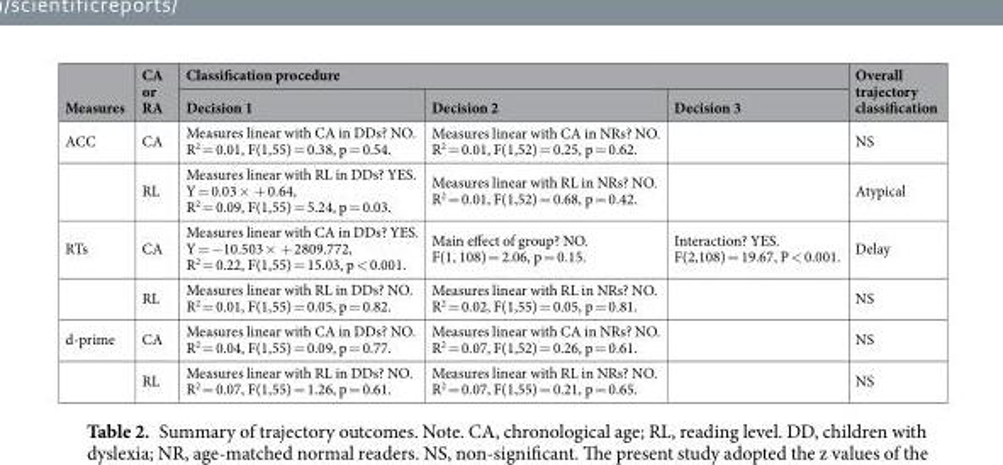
<table><thead><tr><td rowspan="2">Measures</td><td rowspan="2">CA or RA</td><td colspan="3">Classification procedure</td><td rowspan="2">Overall trajectory classification</td></tr><tr><td>Decision 1</td><td>Decision 2</td><td>Decision 3</td></tr></thead><tbody><tr><td rowspan="2">ACC</td><td>CA</td><td>Measures linear with CA in DDs? NO. R<sup>2</sup> = 0.01, F(1,55) = 0.38, p = 0.54.</td><td>Measures linear with CA in NRs? NO. R<sup>2</sup> = 0.01, F(1,52) = 0.25, p = 0.62.</td><td></td><td>NS</td></tr><tr><td>RL</td><td>Measures linear with RL in DDs? YES. Y = 0.03 × + 0.64, R<sup>2</sup> = 0.09, F(1,55) = 5.24, p = 0.03.</td><td>Measures linear with RL in NRs? NO. R<sup>2</sup> = 0.01, F(1,52) = 0.68, p = 0.42.</td><td></td><td>Atypical</td></tr><tr><td rowspan="2">RTs</td><td>CA</td><td>Measures linear with CA in DDs? YES. Y = −10.503 × + 2809.772, R<sup>2</sup> = 0.22, F(1,55) = 15.03, p &lt; 0.001.</td><td>Main effect of group? NO. F(1, 108) = 2.06, p = 0.15.</td><td>Interaction? YES. F(2,108) = 19.67, P &lt; 0.001.</td><td>Delay</td></tr><tr><td>RL</td><td>Measures linear with RL in DDs? NO. R<sup>2</sup> = 0.01, F(1,55) = 0.05, p = 0.82.</td><td>Measures linear with RL in NRs? NO. R<sup>2</sup> = 0.02, F(1,55) = 0.05, p = 0.81.</td><td></td><td>NS</td></tr><tr><td rowspan="2">d-prime</td><td>CA</td><td>Measures linear with CA in DDs? NO. R<sup>2</sup> = 0.04, F(1,55) = 0.09, p = 0.77.</td><td>Measures linear with CA in NRs? NO. R<sup>2</sup> = 0.07, F(1,52) = 0.26, p = 0.61.</td><td></td><td>NS</td></tr><tr><td>RL</td><td>Measures linear with RL in DDs? NO. R<sup>2</sup> = 0.07, F(1,55) = 1.26, p = 0.61.</td><td>Measures linear with RL in NRs? NO. R<sup>2</sup> = 0.07, F(1,55) = 0.21, p = 0.65.</td><td></td><td>NS</td></tr></tbody></table>